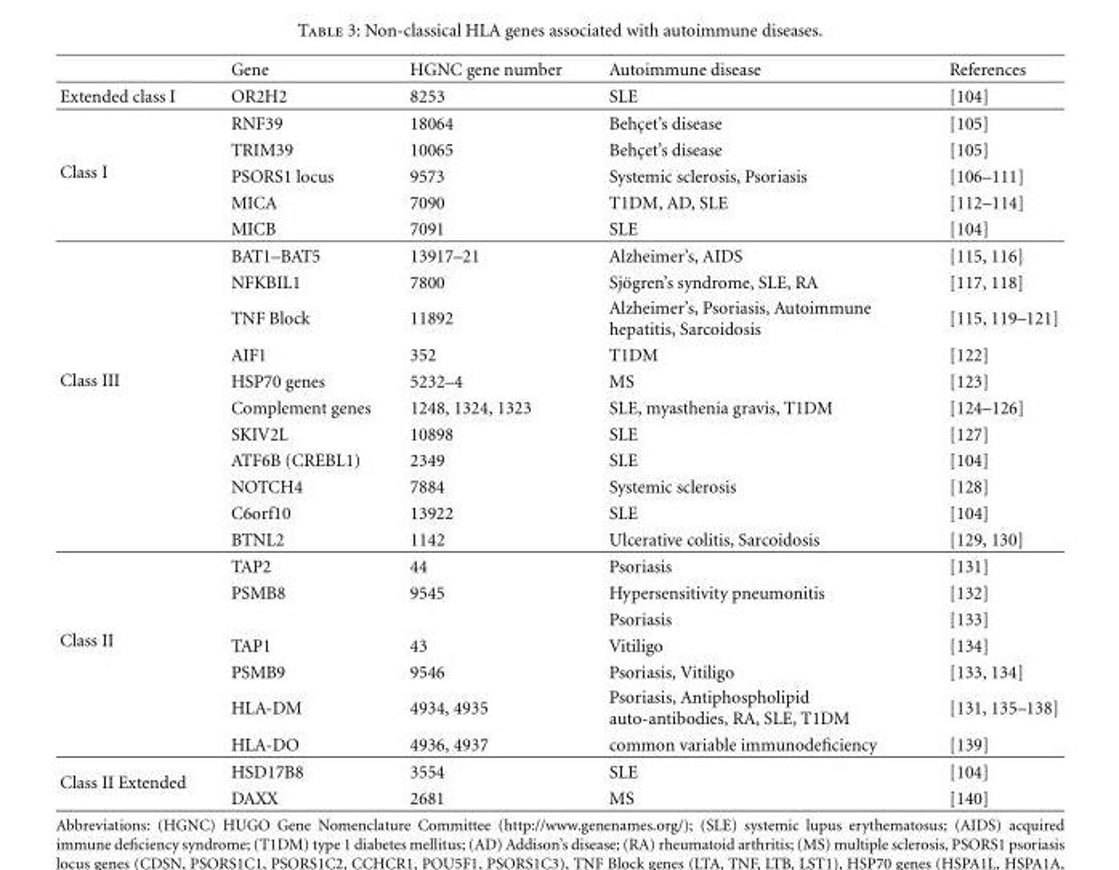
<table><thead><tr><td></td><td>Gene</td><td>HGNC gene number</td><td>Autoimmune disease</td><td>References</td></tr></thead><tbody><tr><td>Extended class I</td><td>OR2H2</td><td>8253</td><td>SLE</td><td>[104]</td></tr><tr><td rowspan="5">Class I</td><td>RNF39</td><td>18064</td><td>Behc¸et’s disease</td><td>[105]</td></tr><tr><td>TRIM39</td><td>10065</td><td>Behc¸et’s disease</td><td>[105]</td></tr><tr><td>PSORS1 locus</td><td>9573</td><td>Systemic sclerosis, Psoriasis</td><td>[106–111]</td></tr><tr><td>MICA</td><td>7090</td><td>T1DM, AD, SLE</td><td>[112–114]</td></tr><tr><td>MICB</td><td>7091</td><td>SLE</td><td>[104]</td></tr><tr><td rowspan="11">Class III</td><td>BAT1–BAT5</td><td>13917–21</td><td>Alzheimer’s, AIDS</td><td>[115, 116]</td></tr><tr><td>NFKBIL1</td><td>7800</td><td>Sj¨ogren’s syndrome, SLE, RA</td><td>[117, 118]</td></tr><tr><td>TNF Block</td><td>11892</td><td>Alzheimer’s, Psoriasis, Autoimmune hepatitis, Sarcoidosis</td><td>[115, 119–121]</td></tr><tr><td>AIF1</td><td>352</td><td>T1DM</td><td>[122]</td></tr><tr><td>HSP70 genes</td><td>5232–4</td><td>MS</td><td>[123]</td></tr><tr><td>Complement genes</td><td>1248, 1324, 1323</td><td>SLE, myasthenia gravis, T1DM</td><td>[124–126]</td></tr><tr><td>SKIV2L</td><td>10898</td><td>SLE</td><td>[127]</td></tr><tr><td>ATF6B (CREBL1)</td><td>2349</td><td>SLE</td><td>[104]</td></tr><tr><td>NOTCH4</td><td>7884</td><td>Systemic sclerosis</td><td>[128]</td></tr><tr><td>C6orf10</td><td>13922</td><td>SLE</td><td>[104]</td></tr><tr><td>BTNL2</td><td>1142</td><td>Ulcerative colitis, Sarcoidosis</td><td>[129, 130]</td></tr><tr><td rowspan="7">Class II</td><td>TAP2</td><td>44</td><td>Psoriasis</td><td>[131]</td></tr><tr><td>PSMB8</td><td>9545</td><td>Hypersensitivity pneumonitis</td><td>[132]</td></tr><tr><td></td><td></td><td>Psoriasis</td><td>[133]</td></tr><tr><td>TAP1</td><td>43</td><td>Vitiligo</td><td>[134]</td></tr><tr><td>PSMB9</td><td>9546</td><td>Psoriasis, Vitiligo</td><td>[133, 134]</td></tr><tr><td>HLA-DM</td><td>4934, 4935</td><td>Psoriasis, Antiphospholipid auto-antibodies, RA, SLE, T1DM</td><td>[131, 135–138]</td></tr><tr><td>HLA-DO</td><td>4936, 4937</td><td>common variable immunodeficiency</td><td>[139]</td></tr><tr><td rowspan="2">Class II Extended</td><td>HSD17B8</td><td>3554</td><td>SLE</td><td>[104]</td></tr><tr><td>DAXX</td><td>2681</td><td>MS</td><td>[140]</td></tr></tbody></table>